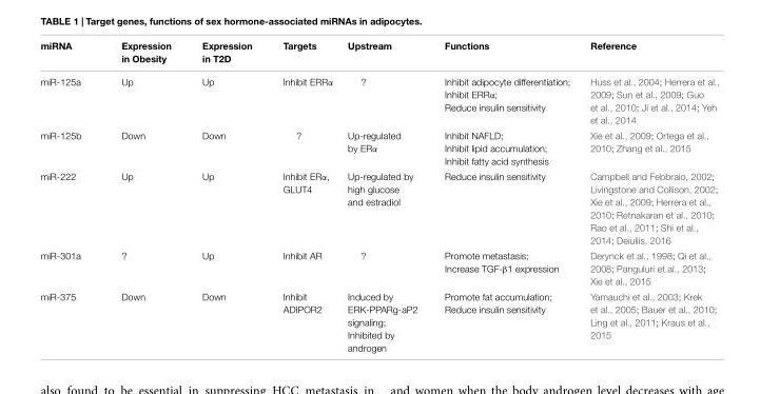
<table><thead><tr><td>miRNA</td><td>Expression in Obesity</td><td>Expression in T2D</td><td>Targets</td><td>Upstream</td><td>Functions</td><td>Reference</td></tr></thead><tbody><tr><td>miR-125a</td><td>Up</td><td>Up</td><td>Inhibit ERRα</td><td>?</td><td>Inhibit adipocyte differentiation; Inhibit ERRα; Reduce insulin sensitivity</td><td>Huss et al., 2004; Herrera et al., 2009; Sun et al., 2009; Guo et al., 2010; Ji et al., 2014; Yeh et al., 2014</td></tr><tr><td>miR-125b</td><td>Down</td><td>Down</td><td>?</td><td>Up-regulated by ERα</td><td>Inhibit NAFLD; Inhibit lipid accumulation; Inhibit fatty acid synthesis</td><td>Xie et al., 2009; Ortega et al., 2010; Zhang et al., 2015</td></tr><tr><td>miR-222</td><td>Up</td><td>Up</td><td>Inhibit ERα, GLUT4</td><td>Up-regulated by high glucose and estradiol</td><td>Reduce insulin sensitivity</td><td>Campbell and Febbraio, 2002; Livingstone and Collison, 2002; Xie et al., 2009; Herrera et al., 2010; Retnakaran et al., 2010; Rao et al., 2011; Shi et al., 2014; Deiuliis, 2016</td></tr><tr><td>miR-301a</td><td>?</td><td>Up</td><td>Inhibit AR</td><td>?</td><td>Promote metastasis; Increase TGF-β1 expression</td><td>Derynck et al., 1998; Qi et al., 2008; Panguluri et al., 2013; Xie et al., 2015</td></tr><tr><td>miR-375</td><td>Down</td><td>Down</td><td>Inhibit ADIPOR2</td><td>Induced by ERK-PPARg-aP2 signaling; Inhibited by androgen</td><td>Promote fat accumulation; Reduce insulin sensitivity</td><td>Yamauchi et al., 2003; Krek et al., 2005; Bauer et al., 2010; Ling et al., 2011; Kraus et al., 2015</td></tr></tbody></table>